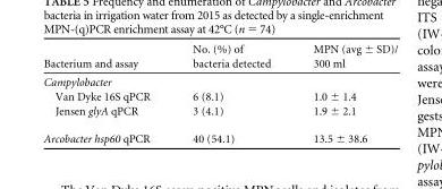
<table><thead><tr><td>Bacterium and assay</td><td>No. (%) of bacteria detected</td><td>MPN (avg ± SD)/ 300 ml</td></tr></thead><tbody><tr><td colspan="3">Campylobacter</td></tr><tr><td>Van Dyke 16S qPCR</td><td>6 (8.1)</td><td>1.0 ± 1.4</td></tr><tr><td>Jensen glyA qPCR</td><td>3 (4.1)</td><td>1.9 ± 2.1</td></tr><tr><td>Arcobacter hsp60 qPCR</td><td>40 (54.1)</td><td>13.5 ± 38.6</td></tr></tbody></table>